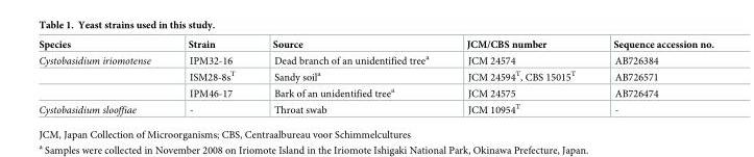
<table><thead><tr><td>Species</td><td>Strain</td><td>Source</td><td>JCM/CBS number</td><td>Sequence accession no.</td></tr></thead><tbody><tr><td rowspan="3">Cystobasidium iriomotense</td><td>IPM32-16</td><td>Dead branch of an unidentified tree<sup>a</sup></td><td>JCM 24574</td><td>AB726384</td></tr><tr><td>ISM28-8s<sup>T</sup></td><td>Sandy soil<sup>a</sup></td><td>JCM 24594<sup>T</sup>, CBS 15015<sup>T</sup></td><td>AB726571</td></tr><tr><td>IPM46-17</td><td>Bark of an unidentified tree<sup>a</sup></td><td>JCM 24575</td><td>AB726474</td></tr><tr><td>Cystobasidium slooffiae</td><td>-</td><td>Throat swab</td><td>JCM 10954<sup>T</sup></td><td>-</td></tr></tbody></table>